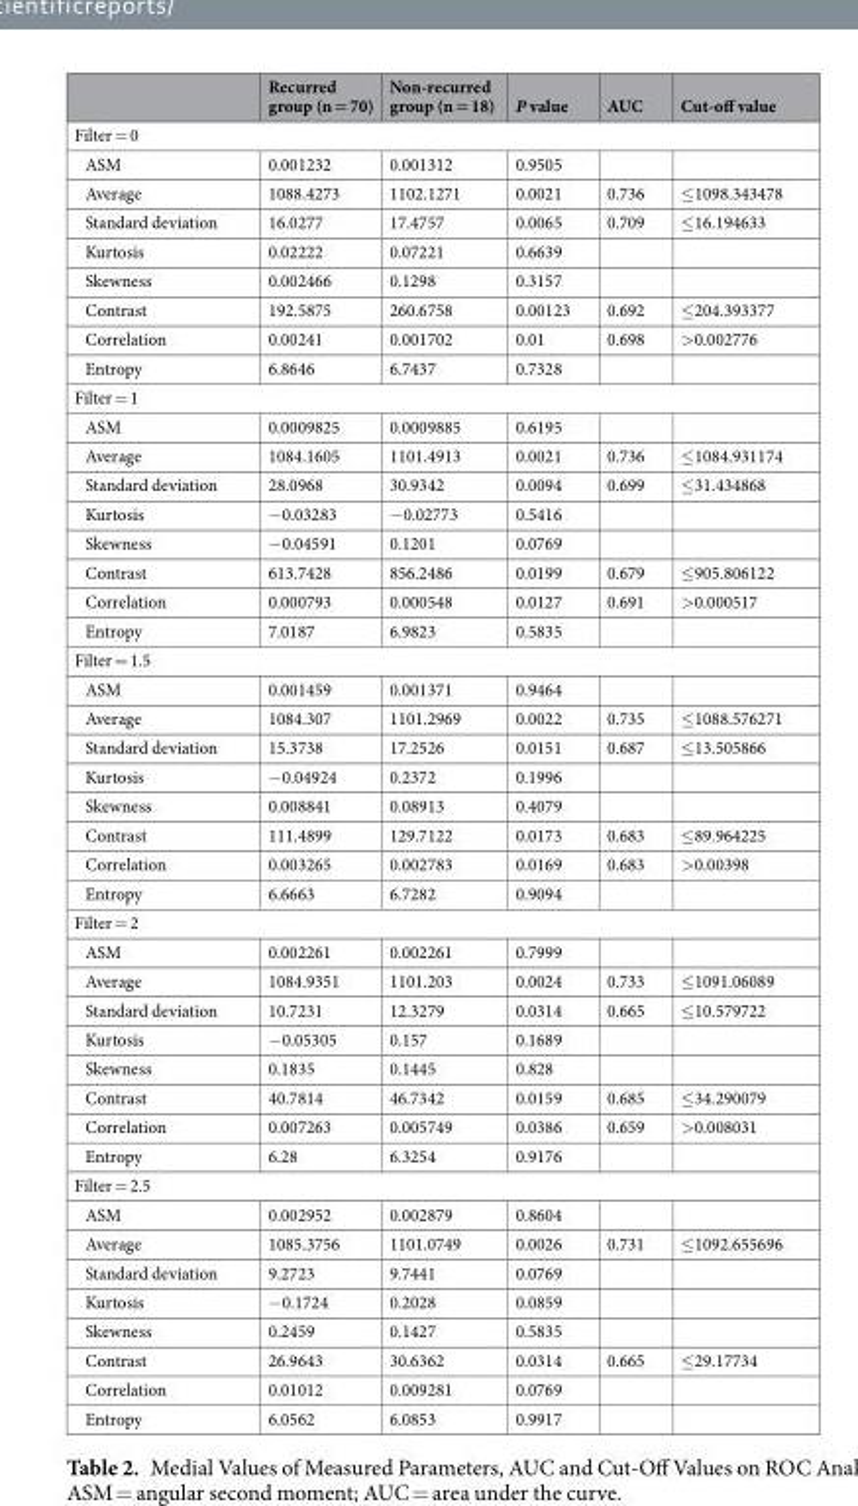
<table><thead><tr><td></td><td>Recurred group (n = 70)</td><td>Non-recurred group (n = 18)</td><td>P value</td><td>AUC</td><td>Cut-off value</td></tr></thead><tbody><tr><td colspan="6">Filter = 0</td></tr><tr><td>ASM</td><td>0.001232</td><td>0.001312</td><td>0.9505</td><td></td><td></td></tr><tr><td>Average</td><td>1088.4273</td><td>1102.1271</td><td>0.0021</td><td>0.736</td><td>≤1098.343478</td></tr><tr><td>Standard deviation</td><td>16.0277</td><td>17.4757</td><td>0.0065</td><td>0.709</td><td>≤16.194633</td></tr><tr><td>Kurtosis</td><td>0.02222</td><td>0.07221</td><td>0.6639</td><td></td><td></td></tr><tr><td>Skewness</td><td>0.002466</td><td>0.1298</td><td>0.3157</td><td></td><td></td></tr><tr><td>Contrast</td><td>192.5875</td><td>260.6758</td><td>0.00123</td><td>0.692</td><td>≤204.393377</td></tr><tr><td>Correlation</td><td>0.00241</td><td>0.001702</td><td>0.01</td><td>0.698</td><td>&gt;0.002776</td></tr><tr><td>Entropy</td><td>6.8646</td><td>6.7437</td><td>0.7328</td><td></td><td></td></tr><tr><td colspan="6">Filter = 1</td></tr><tr><td>ASM</td><td>0.0009825</td><td>0.0009885</td><td>0.6195</td><td></td><td></td></tr><tr><td>Average</td><td>1084.1605</td><td>1101.4913</td><td>0.0021</td><td>0.736</td><td>≤1084.931174</td></tr><tr><td>Standard deviation</td><td>28.0968</td><td>30.9342</td><td>0.0094</td><td>0.699</td><td>≤31.434868</td></tr><tr><td>Kurtosis</td><td>−0.03283</td><td>−0.02773</td><td>0.5416</td><td></td><td></td></tr><tr><td>Skewness</td><td>−0.04591</td><td>0.1201</td><td>0.0769</td><td></td><td></td></tr><tr><td>Contrast</td><td>613.7428</td><td>856.2486</td><td>0.0199</td><td>0.679</td><td>≤905.806122</td></tr><tr><td>Correlation</td><td>0.000793</td><td>0.000548</td><td>0.0127</td><td>0.691</td><td>&gt;0.000517</td></tr><tr><td>Entropy</td><td>7.0187</td><td>6.9823</td><td>0.5835</td><td></td><td></td></tr><tr><td colspan="6">Filter = 1.5</td></tr><tr><td>ASM</td><td>0.001459</td><td>0.001371</td><td>0.9464</td><td></td><td></td></tr><tr><td>Average</td><td>1084.307</td><td>1101.2969</td><td>0.0022</td><td>0.735</td><td>≤1088.576271</td></tr><tr><td>Standard deviation</td><td>15.3738</td><td>17.2526</td><td>0.0151</td><td>0.687</td><td>≤13.505866</td></tr><tr><td>Kurtosis</td><td>−0.04924</td><td>0.2372</td><td>0.1996</td><td></td><td></td></tr><tr><td>Skewness</td><td>0.008841</td><td>0.08913</td><td>0.4079</td><td></td><td></td></tr><tr><td>Contrast</td><td>111.4899</td><td>129.7122</td><td>0.0173</td><td>0.683</td><td>≤89.964225</td></tr><tr><td>Correlation</td><td>0.003265</td><td>0.002783</td><td>0.0169</td><td>0.683</td><td>&gt;0.00398</td></tr><tr><td>Entropy</td><td>6.6663</td><td>6.7282</td><td>0.9094</td><td></td><td></td></tr><tr><td colspan="6">Filter = 2</td></tr><tr><td>ASM</td><td>0.002261</td><td>0.002261</td><td>0.7999</td><td></td><td></td></tr><tr><td>Average</td><td>1084.9351</td><td>1101.203</td><td>0.0024</td><td>0.733</td><td>≤1091.06089</td></tr><tr><td>Standard deviation</td><td>10.7231</td><td>12.3279</td><td>0.0314</td><td>0.665</td><td>≤10.579722</td></tr><tr><td>Kurtosis</td><td>−0.05305</td><td>0.157</td><td>0.1689</td><td></td><td></td></tr><tr><td>Skewness</td><td>0.1835</td><td>0.1445</td><td>0.828</td><td></td><td></td></tr><tr><td>Contrast</td><td>40.7814</td><td>46.7342</td><td>0.0159</td><td>0.685</td><td>≤34.290079</td></tr><tr><td>Correlation</td><td>0.007263</td><td>0.005749</td><td>0.0386</td><td>0.659</td><td>&gt;0.008031</td></tr><tr><td>Entropy</td><td>6.28</td><td>6.3254</td><td>0.9176</td><td></td><td></td></tr><tr><td colspan="6">Filter = 2.5</td></tr><tr><td>ASM</td><td>0.002952</td><td>0.002879</td><td>0.8604</td><td></td><td></td></tr><tr><td>Average</td><td>1085.3756</td><td>1101.0749</td><td>0.0026</td><td>0.731</td><td>≤1092.655696</td></tr><tr><td>Standard deviation</td><td>9.2723</td><td>9.7441</td><td>0.0769</td><td></td><td></td></tr><tr><td>Kurtosis</td><td>−0.1724</td><td>0.2028</td><td>0.0859</td><td></td><td></td></tr><tr><td>Skewness</td><td>0.2459</td><td>0.1427</td><td>0.5835</td><td></td><td></td></tr><tr><td>Contrast</td><td>26.9643</td><td>30.6362</td><td>0.0314</td><td>0.665</td><td>≤29.17734</td></tr><tr><td>Correlation</td><td>0.01012</td><td>0.009281</td><td>0.0769</td><td></td><td></td></tr><tr><td>Entropy</td><td>6.0562</td><td>6.0853</td><td>0.9917</td><td></td><td></td></tr></tbody></table>